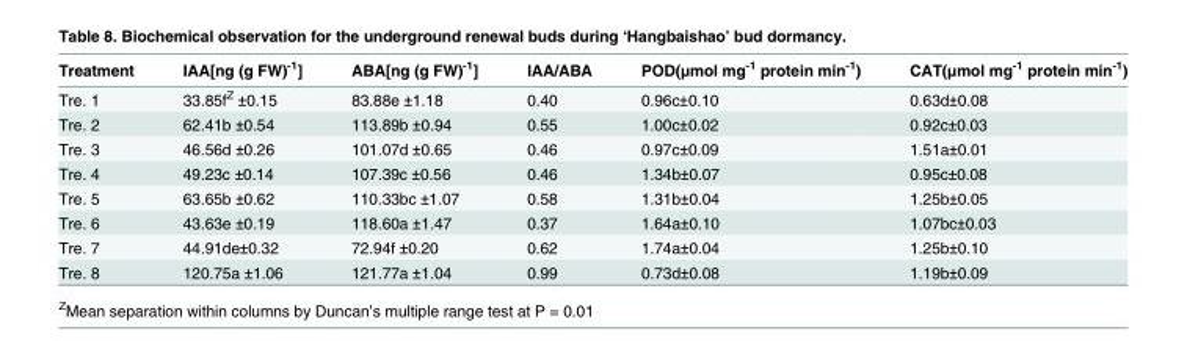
<table><thead><tr><td>Treatment</td><td>IAA[ng (g FW)<sup>-1</sup>]</td><td>ABA[ng (g FW)<sup>-1</sup>]</td><td>IAA/ABA</td><td>POD(μmol mg<sup>-1</sup> protein min<sup>-1</sup>)</td><td>CAT(μmol mg<sup>-1</sup> protein min<sup>-1</sup>)</td></tr></thead><tbody><tr><td>Tre. 1</td><td>33.85f<sup>Z</sup> ±0.15</td><td>83.88e ±1.18</td><td>0.40</td><td>0.96c±0.10</td><td>0.63d±0.08</td></tr><tr><td>Tre. 2</td><td>62.41b ±0.54</td><td>113.89b ±0.94</td><td>0.55</td><td>1.00c±0.02</td><td>0.92c±0.03</td></tr><tr><td>Tre. 3</td><td>46.56d ±0.26</td><td>101.07d ±0.65</td><td>0.46</td><td>0.97c±0.09</td><td>1.51a±0.01</td></tr><tr><td>Tre. 4</td><td>49.23c ±0.14</td><td>107.39c ±0.56</td><td>0.46</td><td>1.34b±0.07</td><td>0.95c±0.08</td></tr><tr><td>Tre. 5</td><td>63.65b ±0.62</td><td>110.33bc ±1.07</td><td>0.58</td><td>1.31b±0.04</td><td>1.25b±0.05</td></tr><tr><td>Tre. 6</td><td>43.63e ±0.19</td><td>118.60a ±1.47</td><td>0.37</td><td>1.64a±0.10</td><td>1.07bc±0.03</td></tr><tr><td>Tre. 7</td><td>44.91de±0.32</td><td>72.94f ±0.20</td><td>0.62</td><td>1.74a±0.04</td><td>1.25b±0.10</td></tr><tr><td>Tre. 8</td><td>120.75a ±1.06</td><td>121.77a ±1.04</td><td>0.99</td><td>0.73d±0.08</td><td>1.19b±0.09</td></tr></tbody></table>